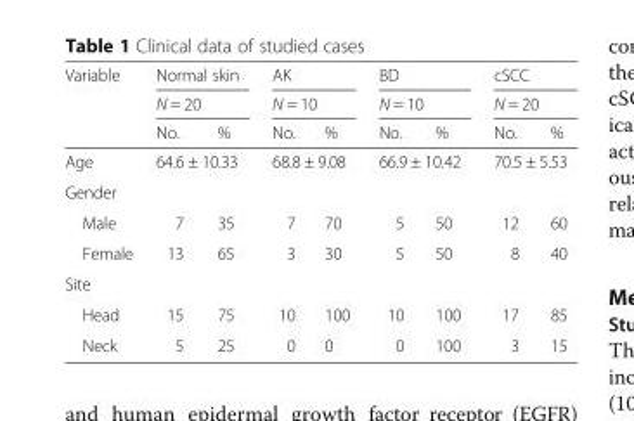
<table><thead><tr><td rowspan="3">Variable</td><td rowspan="2" colspan="2">Normal skin N = 20</td><td rowspan="2" colspan="2">AK N = 10</td><td rowspan="2" colspan="2">BD N = 10</td><td rowspan="2" colspan="2">cSCC N = 20</td></tr><tr></tr><tr><td>No.</td><td>%</td><td>No.</td><td>%</td><td>No.</td><td>%</td><td>No.</td><td>%</td></tr></thead><tbody><tr><td>Age</td><td colspan="2">64.6 ± 10.33</td><td colspan="2">68.8 ± 9.08</td><td colspan="2">66.9 ± 10.42</td><td colspan="2">70.5 ± 5.53</td></tr><tr><td colspan="9">Gender</td></tr><tr><td>Male</td><td>7</td><td>35</td><td>7</td><td>70</td><td>5</td><td>50</td><td>12</td><td>60</td></tr><tr><td>Female</td><td>13</td><td>65</td><td>3</td><td>30</td><td>5</td><td>50</td><td>8</td><td>40</td></tr><tr><td colspan="9">Site</td></tr><tr><td>Head</td><td>15</td><td>75</td><td>10</td><td>100</td><td>10</td><td>100</td><td>17</td><td>85</td></tr><tr><td>Neck</td><td>5</td><td>25</td><td>0</td><td>0</td><td>0</td><td>100</td><td>3</td><td>15</td></tr></tbody></table>